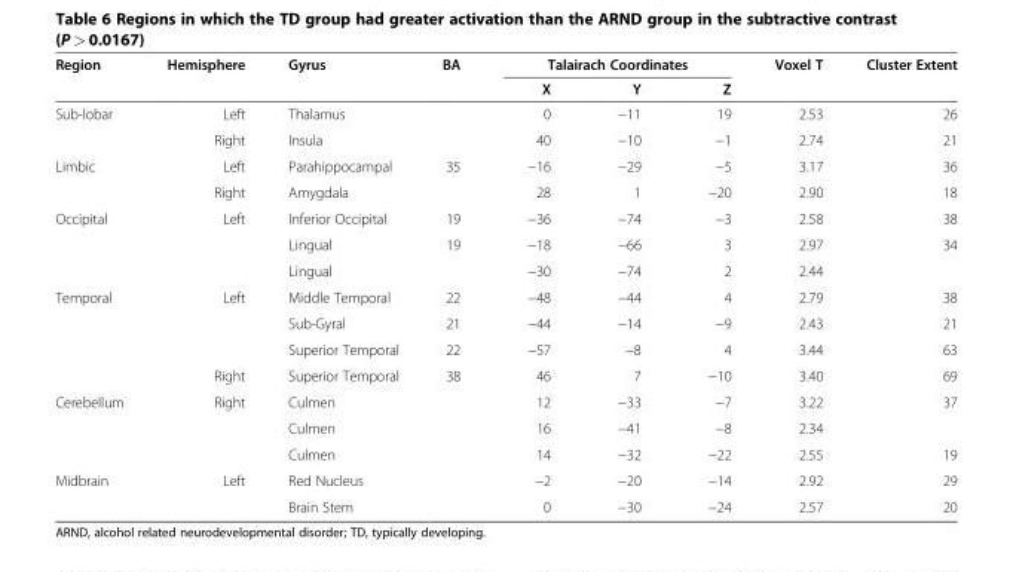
<table><thead><tr><td rowspan="2">Region</td><td rowspan="2">Hemisphere</td><td rowspan="2">Gyrus</td><td rowspan="2">BA</td><td colspan="3">Talairach Coordinates</td><td rowspan="2">Voxel T</td><td rowspan="2">Cluster Extent</td></tr><tr><td>X</td><td>Y</td><td>Z</td></tr></thead><tbody><tr><td rowspan="2">Sub-lobar</td><td>Left</td><td>Thalamus</td><td></td><td>0</td><td>−11</td><td>19</td><td>2.53</td><td>26</td></tr><tr><td>Right</td><td>Insula</td><td></td><td>40</td><td>−10</td><td>−1</td><td>2.74</td><td>21</td></tr><tr><td rowspan="2">Limbic</td><td>Left</td><td>Parahippocampal</td><td>35</td><td>−16</td><td>−29</td><td>−5</td><td>3.17</td><td>36</td></tr><tr><td>Right</td><td>Amygdala</td><td></td><td>28</td><td>1</td><td>−20</td><td>2.90</td><td>18</td></tr><tr><td rowspan="3">Occipital</td><td>Left</td><td>Inferior Occipital</td><td>19</td><td>−36</td><td>−74</td><td>−3</td><td>2.58</td><td>38</td></tr><tr><td></td><td>Lingual</td><td>19</td><td>−18</td><td>−66</td><td>3</td><td>2.97</td><td>34</td></tr><tr><td></td><td>Lingual</td><td></td><td>−30</td><td>−74</td><td>2</td><td>2.44</td><td></td></tr><tr><td rowspan="4">Temporal</td><td>Left</td><td>Middle Temporal</td><td>22</td><td>−48</td><td>−44</td><td>4</td><td>2.79</td><td>38</td></tr><tr><td></td><td>Sub-Gyral</td><td>21</td><td>−44</td><td>−14</td><td>−9</td><td>2.43</td><td>21</td></tr><tr><td></td><td>Superior Temporal</td><td>22</td><td>−57</td><td>−8</td><td>4</td><td>3.44</td><td>63</td></tr><tr><td>Right</td><td>Superior Temporal</td><td>38</td><td>46</td><td>7</td><td>−10</td><td>3.40</td><td>69</td></tr><tr><td rowspan="3">Cerebellum</td><td>Right</td><td>Culmen</td><td></td><td>12</td><td>−33</td><td>−7</td><td>3.22</td><td>37</td></tr><tr><td></td><td>Culmen</td><td></td><td>16</td><td>−41</td><td>−8</td><td>2.34</td><td></td></tr><tr><td></td><td>Culmen</td><td></td><td>14</td><td>−32</td><td>−22</td><td>2.55</td><td>19</td></tr><tr><td rowspan="2">Midbrain</td><td>Left</td><td>Red Nucleus</td><td></td><td>−2</td><td>−20</td><td>−14</td><td>2.92</td><td>29</td></tr><tr><td></td><td>Brain Stem</td><td></td><td>0</td><td>−30</td><td>−24</td><td>2.57</td><td>20</td></tr></tbody></table>